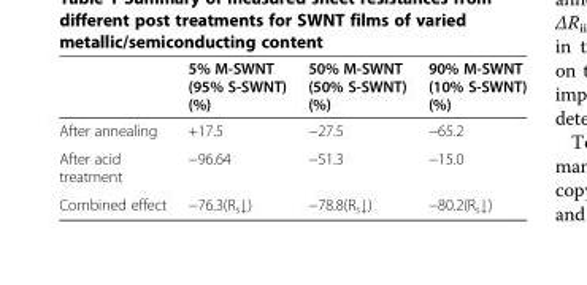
<table><thead><tr><td></td><td>5% M-SWNT (95% S-SWNT) (%)</td><td>50% M-SWNT (50% S-SWNT) (%)</td><td>90% M-SWNT (10% S-SWNT) (%)</td></tr></thead><tbody><tr><td>After annealing</td><td>+17.5</td><td>−27.5</td><td>−65.2</td></tr><tr><td>After acid treatment</td><td>−96.64</td><td>−51.3</td><td>−15.0</td></tr><tr><td>Combined effect</td><td>−76.3(R<sub>s</sub>↓)</td><td>−78.8(R<sub>s</sub>↓)</td><td>−80.2(R<sub>s</sub>↓)</td></tr></tbody></table>